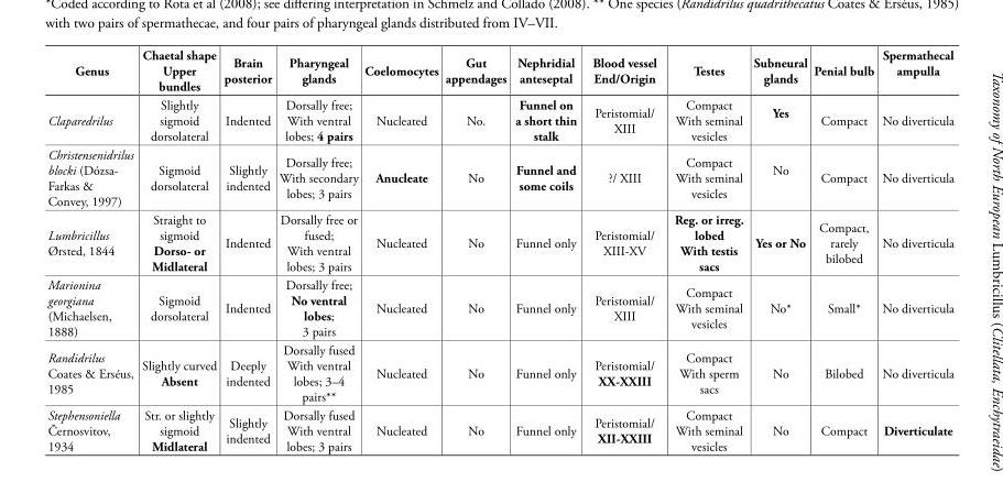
<table><thead><tr><td>Genus</td><td>Chaetal shape Upper bundles</td><td>Brain posterior</td><td>Pharyngeal glands</td><td>Coelomocytes</td><td>Gut appendages</td><td>Nephridial anteseptal</td><td>Blood vessel End/Origin</td><td>Testes</td><td>Subneural glands</td><td>Penial bulb</td><td>Spermathecal ampulla</td></tr></thead><tbody><tr><td>Claparedrilus</td><td>Slightly sigmoid dorsolateral</td><td>Indented</td><td>Dorsally free; With ventral lobes; 4 pairs</td><td>Nucleated</td><td>No.</td><td>Funnel on a short thin stalk</td><td>Peristomial/ XIII</td><td>Compact With seminal vesicles</td><td>Yes</td><td>Compact</td><td>No diverticula</td></tr><tr><td>Christensenidrilus blocki (Dózsa- Farkas &amp; Convey, 1997)</td><td>Sigmoid dorsolateral</td><td>Slightly indented</td><td>Dorsally free; With secondary lobes; 3 pairs</td><td>Anucleate</td><td>No</td><td>Funnel and some coils</td><td>?/ XIII</td><td>Compact With seminal vesicles</td><td>No</td><td>Compact</td><td>No diverticula</td></tr><tr><td>Lumbricillus Ørsted, 1844</td><td>Straight to sigmoid Dorso- or Midlateral</td><td>Indented</td><td>Dorsally free or fused; With ventral lobes; 3 pairs</td><td>Nucleated</td><td>No</td><td>Funnel only</td><td>Peristomial/ XIII-XV</td><td>Reg. or irreg. lobed With testis sacs</td><td>Yes or No</td><td>Compact, rarely bilobed</td><td>No diverticula</td></tr><tr><td>Marionina georgiana (Michaelsen, 1888)</td><td>Sigmoid dorsolateral</td><td>Indented</td><td>Dorsally free; No ventral lobes; 3 pairs</td><td>Nucleated</td><td>No</td><td>Funnel only</td><td>Peristomial/ XIII</td><td>Compact With seminal vesicles</td><td>No*</td><td>Small*</td><td>No diverticula</td></tr><tr><td>Randidrilus Coates &amp; Erséus, 1985</td><td>Slightly curved Absent</td><td>Deeply indented</td><td>Dorsally fused With ventral lobes; 3–4 pairs**</td><td>Nucleated</td><td>No</td><td>Funnel only</td><td>Peristomial/ XX-XXIII</td><td>Compact With sperm sacs</td><td>No</td><td>Bilobed</td><td>No diverticula</td></tr><tr><td>Stephensoniella Černosvitov, 1934</td><td>Str. or slightly sigmoid Midlateral</td><td>Slightly indented</td><td>Dorsally fused With ventral lobes; 3 pairs</td><td>Nucleated</td><td>No</td><td>Funnel only</td><td>Peristomial/ XII-XXIII</td><td>Compact With seminal vesicles</td><td>No</td><td>Compact</td><td>Diverticulate</td></tr></tbody></table>